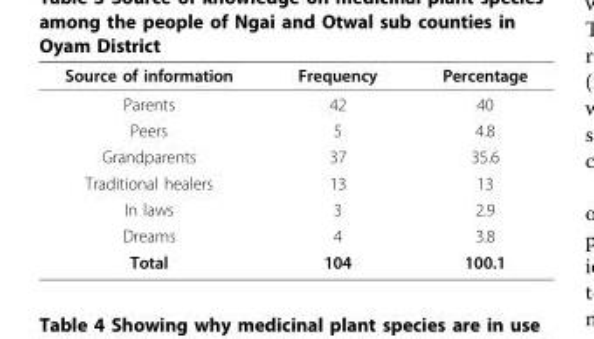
<table><thead><tr><td>Source of information</td><td>Frequency</td><td>Percentage</td></tr></thead><tbody><tr><td>Parents</td><td>42</td><td>40</td></tr><tr><td>Peers</td><td>5</td><td>4.8</td></tr><tr><td>Grandparents</td><td>37</td><td>35.6</td></tr><tr><td>Traditional healers</td><td>13</td><td>13</td></tr><tr><td>In laws</td><td>3</td><td>2.9</td></tr><tr><td>Dreams</td><td>4</td><td>3.8</td></tr><tr><td>Total</td><td>104</td><td>100.1</td></tr></tbody></table>